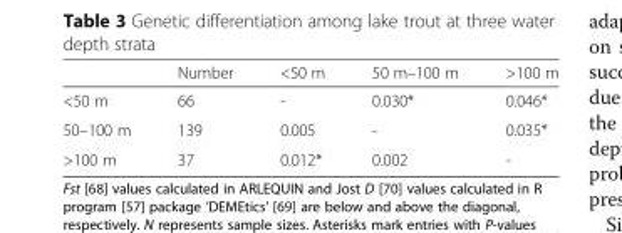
<table><thead><tr><td></td><td>Number</td><td>&lt;50 m</td><td>50 m–100 m</td><td>&gt;100 m</td></tr></thead><tbody><tr><td>&lt;50 m</td><td>66</td><td>-</td><td>0.030*</td><td>0.046*</td></tr><tr><td>50–100 m</td><td>139</td><td>0.005</td><td>-</td><td>0.035*</td></tr><tr><td>&gt;100 m</td><td>37</td><td>0.012*</td><td>0.002</td><td>-</td></tr></tbody></table>